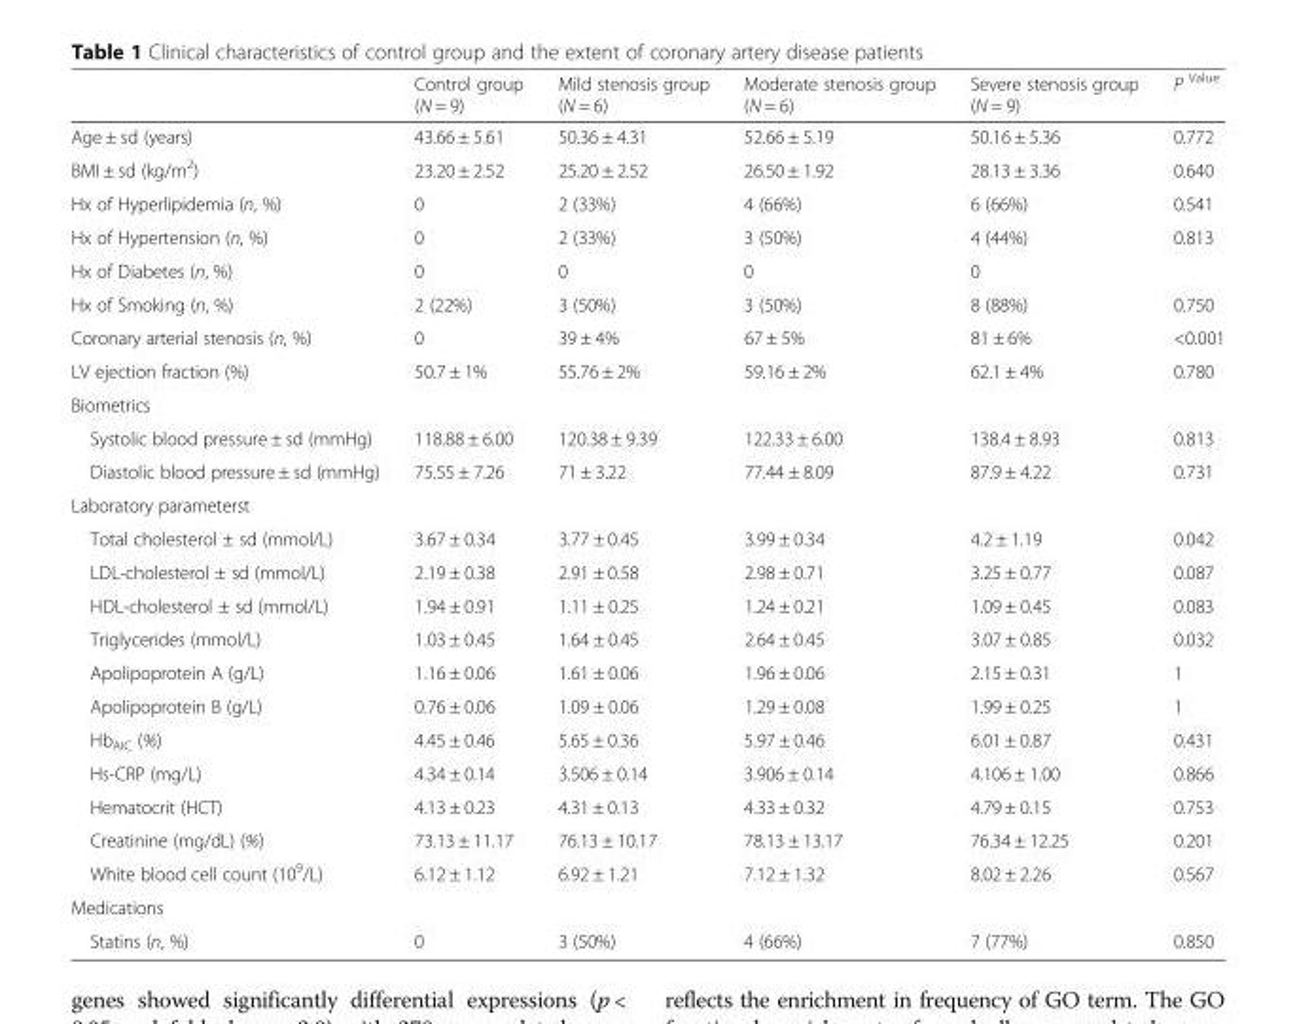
<table><thead><tr><td></td><td>Control group (N = 9)</td><td>Mild stenosis group (N = 6)</td><td>Moderate stenosis group (N = 6)</td><td>Severe stenosis group (N = 9)</td><td>P <sup>Value</sup></td></tr></thead><tbody><tr><td>Age ± sd (years)</td><td>43.66 ± 5.61</td><td>50.36 ± 4.31</td><td>52.66 ± 5.19</td><td>50.16 ± 5.36</td><td>0.772</td></tr><tr><td>BMI ± sd (kg/m<sup>2</sup>)</td><td>23.20 ± 2.52</td><td>25.20 ± 2.52</td><td>26.50 ± 1.92</td><td>28.13 ± 3.36</td><td>0.640</td></tr><tr><td>Hx of Hyperlipidemia (n, %)</td><td>0</td><td>2 (33%)</td><td>4 (66%)</td><td>6 (66%)</td><td>0.541</td></tr><tr><td>Hx of Hypertension (n, %)</td><td>0</td><td>2 (33%)</td><td>3 (50%)</td><td>4 (44%)</td><td>0.813</td></tr><tr><td>Hx of Diabetes (n, %)</td><td>0</td><td>0</td><td>0</td><td>0</td><td></td></tr><tr><td>Hx of Smoking (n, %)</td><td>2 (22%)</td><td>3 (50%)</td><td>3 (50%)</td><td>8 (88%)</td><td>0.750</td></tr><tr><td>Coronary arterial stenosis (n, %)</td><td>0</td><td>39 ± 4%</td><td>67 ± 5%</td><td>81 ± 6%</td><td>&lt;0.001</td></tr><tr><td>LV ejection fraction (%)</td><td>50.7 ± 1%</td><td>55.76 ± 2%</td><td>59.16 ± 2%</td><td>62.1 ± 4%</td><td>0.780</td></tr><tr><td colspan="6">Biometrics</td></tr><tr><td>Systolic blood pressure ± sd (mmHg)</td><td>118.88 ± 6.00</td><td>120.38 ± 9.39</td><td>122.33 ± 6.00</td><td>138.4 ± 8.93</td><td>0.813</td></tr><tr><td>Diastolic blood pressure ± sd (mmHg)</td><td>75.55 ± 7.26</td><td>71 ± 3.22</td><td>77.44 ± 8.09</td><td>87.9 ± 4.22</td><td>0.731</td></tr><tr><td colspan="6">Laboratory parameterst</td></tr><tr><td>Total cholesterol ± sd (mmol/L)</td><td>3.67 ± 0.34</td><td>3.77 ± 0.45</td><td>3.99 ± 0.34</td><td>4.2 ± 1.19</td><td>0.042</td></tr><tr><td>LDL-cholesterol ± sd (mmol/L)</td><td>2.19 ± 0.38</td><td>2.91 ± 0.58</td><td>2.98 ± 0.71</td><td>3.25 ± 0.77</td><td>0.087</td></tr><tr><td>HDL-cholesterol ± sd (mmol/L)</td><td>1.94 ± 0.91</td><td>1.11 ± 0.25</td><td>1.24 ± 0.21</td><td>1.09 ± 0.45</td><td>0.083</td></tr><tr><td>Triglycerides (mmol/L)</td><td>1.03 ± 0.45</td><td>1.64 ± 0.45</td><td>2.64 ± 0.45</td><td>3.07 ± 0.85</td><td>0.032</td></tr><tr><td>Apolipoprotein A (g/L)</td><td>1.16 ± 0.06</td><td>1.61 ± 0.06</td><td>1.96 ± 0.06</td><td>2.15 ± 0.31</td><td>1</td></tr><tr><td>Apolipoprotein B (g/L)</td><td>0.76 ± 0.06</td><td>1.09 ± 0.06</td><td>1.29 ± 0.08</td><td>1.99 ± 0.25</td><td>1</td></tr><tr><td>Hb<sub>AIC</sub> (%)</td><td>4.45 ± 0.46</td><td>5.65 ± 0.36</td><td>5.97 ± 0.46</td><td>6.01 ± 0.87</td><td>0.431</td></tr><tr><td>Hs-CRP (mg/L)</td><td>4.34 ± 0.14</td><td>3.506 ± 0.14</td><td>3.906 ± 0.14</td><td>4.106 ± 1.00</td><td>0.866</td></tr><tr><td>Hematocrit (HCT)</td><td>4.13 ± 0.23</td><td>4.31 ± 0.13</td><td>4.33 ± 0.32</td><td>4.79 ± 0.15</td><td>0.753</td></tr><tr><td>Creatinine (mg/dL) (%)</td><td>73.13 ± 11.17</td><td>76.13 ± 10.17</td><td>78.13 ± 13.17</td><td>76.34 ± 12.25</td><td>0.201</td></tr><tr><td>White blood cell count (10<sup>9</sup>/L)</td><td>6.12 ± 1.12</td><td>6.92 ± 1.21</td><td>7.12 ± 1.32</td><td>8.02 ± 2.26</td><td>0.567</td></tr><tr><td colspan="6">Medications</td></tr><tr><td>Statins (n, %)</td><td>0</td><td>3 (50%)</td><td>4 (66%)</td><td>7 (77%)</td><td>0.850</td></tr></tbody></table>